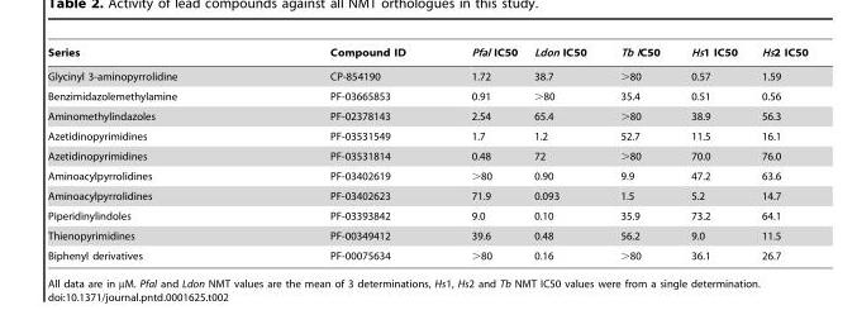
<table><thead><tr><td>Series</td><td>Compound ID</td><td>Pfal IC50</td><td>Ldon IC50</td><td>Tb IC50</td><td>Hs1 IC50</td><td>Hs2 IC50</td></tr></thead><tbody><tr><td>Glycinyl 3-aminopyrrolidine</td><td>CP-854190</td><td>1.72</td><td>38.7</td><td>&gt;80</td><td>0.57</td><td>1.59</td></tr><tr><td>Benzimidazolemethylamine</td><td>PF-03665853</td><td>0.91</td><td>&gt;80</td><td>35.4</td><td>0.51</td><td>0.56</td></tr><tr><td>Aminomethylindazoles</td><td>PF-02378143</td><td>2.54</td><td>65.4</td><td>&gt;80</td><td>38.9</td><td>56.3</td></tr><tr><td>Azetidinopyrimidines</td><td>PF-03531549</td><td>1.7</td><td>1.2</td><td>52.7</td><td>11.5</td><td>16.1</td></tr><tr><td>Azetidinopyrimidines</td><td>PF-03531814</td><td>0.48</td><td>72</td><td>&gt;80</td><td>70.0</td><td>76.0</td></tr><tr><td>Aminoacylpyrrolidines</td><td>PF-03402619</td><td>&gt;80</td><td>0.90</td><td>9.9</td><td>47.2</td><td>63.6</td></tr><tr><td>Aminoacylpyrrolidines</td><td>PF-03402623</td><td>71.9</td><td>0.093</td><td>1.5</td><td>5.2</td><td>14.7</td></tr><tr><td>Piperidinylindoles</td><td>PF-03393842</td><td>9.0</td><td>0.10</td><td>35.9</td><td>73.2</td><td>64.1</td></tr><tr><td>Thienopyrimidines</td><td>PF-00349412</td><td>39.6</td><td>0.48</td><td>56.2</td><td>9.0</td><td>11.5</td></tr><tr><td>Biphenyl derivatives</td><td>PF-00075634</td><td>&gt;80</td><td>0.16</td><td>&gt;80</td><td>36.1</td><td>26.7</td></tr></tbody></table>